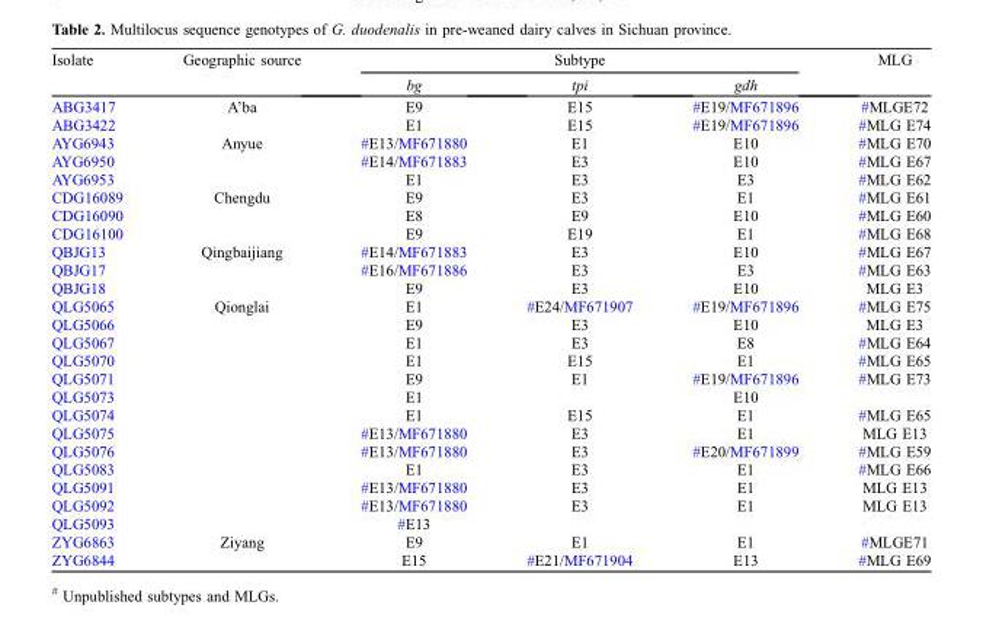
<table><thead><tr><td rowspan="2">Isolate</td><td rowspan="2">Geographic source</td><td colspan="3">Subtype</td><td rowspan="2">MLG</td></tr><tr><td>bg</td><td>tpi</td><td>gdh</td></tr></thead><tbody><tr><td>ABG3417</td><td>A’ba</td><td>E9</td><td>E15</td><td>#E19/MF671896</td><td>#MLGE72</td></tr><tr><td>ABG3422</td><td></td><td>E1</td><td>E15</td><td>#E19/MF671896</td><td>#MLG E74</td></tr><tr><td>AYG6943</td><td>Anyue</td><td>#E13/MF671880</td><td>E1</td><td>E10</td><td>#MLG E70</td></tr><tr><td>AYG6950</td><td></td><td>#E14/MF671883</td><td>E3</td><td>E10</td><td>#MLG E67</td></tr><tr><td>AYG6953</td><td></td><td>E1</td><td>E3</td><td>E3</td><td>#MLG E62</td></tr><tr><td>CDG16089</td><td>Chengdu</td><td>E9</td><td>E3</td><td>E1</td><td>#MLG E61</td></tr><tr><td>CDG16090</td><td></td><td>E8</td><td>E9</td><td>E10</td><td>#MLG E60</td></tr><tr><td>CDG16100</td><td></td><td>E9</td><td>E19</td><td>E1</td><td>#MLG E68</td></tr><tr><td>QBJG13</td><td>Qingbaijiang</td><td>#E14/MF671883</td><td>E3</td><td>E10</td><td>#MLG E67</td></tr><tr><td>QBJG17</td><td></td><td>#E16/MF671886</td><td>E3</td><td>E3</td><td>#MLG E63</td></tr><tr><td>QBJG18</td><td></td><td>E9</td><td>E3</td><td>E10</td><td>MLG E3</td></tr><tr><td>QLG5065</td><td>Qionglai</td><td>E1</td><td>#E24/MF671907</td><td>#E19/MF671896</td><td>#MLG E75</td></tr><tr><td>QLG5066</td><td></td><td>E9</td><td>E3</td><td>E10</td><td>MLG E3</td></tr><tr><td>QLG5067</td><td></td><td>E1</td><td>E3</td><td>E8</td><td>#MLG E64</td></tr><tr><td>QLG5070</td><td></td><td>E1</td><td>E15</td><td>E1</td><td>#MLG E65</td></tr><tr><td>QLG5071</td><td></td><td>E9</td><td>E1</td><td>#E19/MF671896</td><td>#MLG E73</td></tr><tr><td>QLG5073</td><td></td><td>E1</td><td></td><td>E10</td><td></td></tr><tr><td>QLG5074</td><td></td><td>E1</td><td>E15</td><td>E1</td><td>#MLG E65</td></tr><tr><td>QLG5075</td><td></td><td>#E13/MF671880</td><td>E3</td><td>E1</td><td>MLG E13</td></tr><tr><td>QLG5076</td><td></td><td>#E13/MF671880</td><td>E3</td><td>#E20/MF671899</td><td>#MLG E59</td></tr><tr><td>QLG5083</td><td></td><td>E1</td><td>E3</td><td>E1</td><td>#MLG E66</td></tr><tr><td>QLG5091</td><td></td><td>#E13/MF671880</td><td>E3</td><td>E1</td><td>MLG E13</td></tr><tr><td>QLG5092</td><td></td><td>#E13/MF671880</td><td>E3</td><td>E1</td><td>MLG E13</td></tr><tr><td>QLG5093</td><td></td><td>#E13</td><td></td><td></td><td></td></tr><tr><td>ZYG6863</td><td>Ziyang</td><td>E9</td><td>E1</td><td>E1</td><td>#MLGE71</td></tr><tr><td>ZYG6844</td><td></td><td>E15</td><td>#E21/MF671904</td><td>E13</td><td>#MLG E69</td></tr></tbody></table>